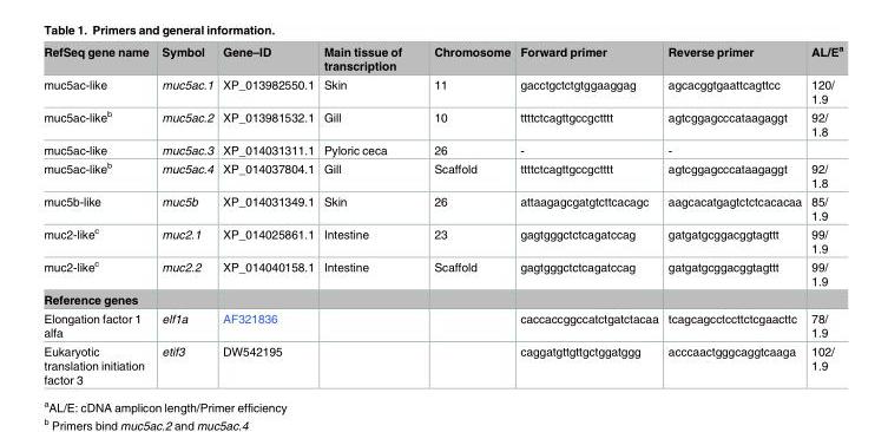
<table><tbody><tr><td>RefSeq gene name</td><td>Symbol</td><td>Gene–ID</td><td>Main tissue of transcription</td><td>Chromosome</td><td>Forward primer</td><td>Reverse primer</td><td>AL/E<sup>a</sup></td></tr><tr><td>muc5ac-like</td><td>muc5ac.1</td><td>XP_013982550.1</td><td>Skin</td><td>11</td><td>gacctgctctgtggaaggag</td><td>agcacggtgaattcagttcc</td><td>120/ 1.9</td></tr><tr><td>muc5ac-like<sup>b</sup></td><td>muc5ac.2</td><td>XP_013981532.1</td><td>Gill</td><td>10</td><td>ttttctcagttgccgctttt</td><td>agtcggagcccataagaggt</td><td>92/ 1.8</td></tr><tr><td>muc5ac-like</td><td>muc5ac.3</td><td>XP_014031311.1</td><td>Pyloric ceca</td><td>26</td><td>-</td><td>-</td><td></td></tr><tr><td>muc5ac-like<sup>b</sup></td><td>muc5ac.4</td><td>XP_014037804.1</td><td>Gill</td><td>Scaffold</td><td>ttttctcagttgccgctttt</td><td>agtcggagcccataagaggt</td><td>92/ 1.8</td></tr><tr><td>muc5b-like</td><td>muc5b</td><td>XP_014031349.1</td><td>Skin</td><td>26</td><td>attaagagcgatgtcttcacagc</td><td>aagcacatgagtctctcacacaa</td><td>85/ 1.9</td></tr><tr><td>muc2-like<sup>c</sup></td><td>muc2.1</td><td>XP_014025861.1</td><td>Intestine</td><td>23</td><td>gagtgggctctcagatccag</td><td>gatgatgcggacggtagttt</td><td>99/ 1.9</td></tr><tr><td>muc2-like<sup>c</sup></td><td>muc2.2</td><td>XP_014040158.1</td><td>Intestine</td><td>Scaffold</td><td>gagtgggctctcagatccag</td><td>gatgatgcggacggtagttt</td><td>99/ 1.9</td></tr><tr><td colspan="8">Reference genes</td></tr><tr><td>Elongation factor 1 alfa</td><td>elf1a</td><td>AF321836</td><td></td><td></td><td>caccaccggccatctgatctacaa</td><td>tcagcagcctccttctcgaacttc</td><td>78/ 1.9</td></tr><tr><td>Eukaryotic translation initiation factor 3</td><td>etif3</td><td>DW542195</td><td></td><td></td><td>caggatgttgttgctggatggg</td><td>acccaactgggcaggtcaaga</td><td>102/ 1.9</td></tr></tbody></table>